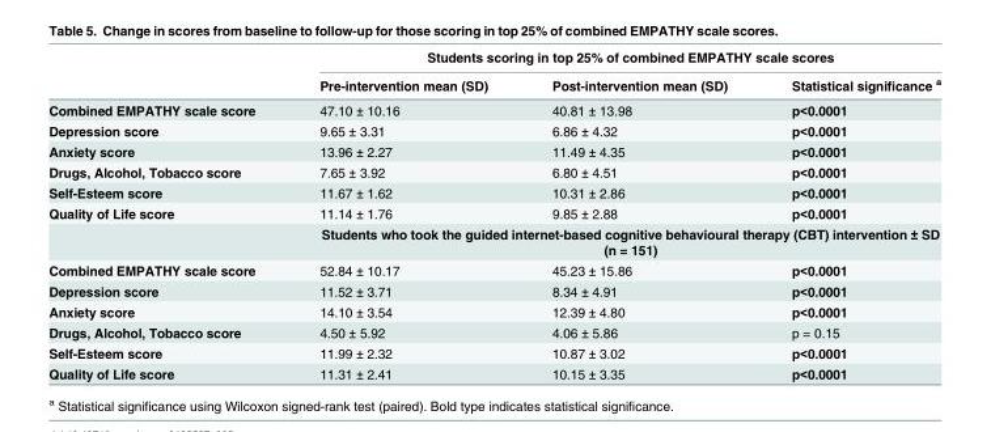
<table><thead><tr><td rowspan="2"></td><td colspan="3">Students scoring in top 25% of combined EMPATHY scale scores</td></tr><tr><td>Pre-intervention mean (SD)</td><td>Post-intervention mean (SD)</td><td>Statistical significance <sup>a</sup></td></tr></thead><tbody><tr><td>Combined EMPATHY scale score</td><td>47.10 ± 10.16</td><td>40.81 ± 13.98</td><td>p&lt;0.0001</td></tr><tr><td>Depression score</td><td>9.65 ± 3.31</td><td>6.86 ± 4.32</td><td>p&lt;0.0001</td></tr><tr><td>Anxiety score</td><td>13.96 ± 2.27</td><td>11.49 ± 4.35</td><td>p&lt;0.0001</td></tr><tr><td>Drugs, Alcohol, Tobacco score</td><td>7.65 ± 3.92</td><td>6.80 ± 4.51</td><td>p&lt;0.0001</td></tr><tr><td>Self-Esteem score</td><td>11.67 ± 1.62</td><td>10.31 ± 2.86</td><td>p&lt;0.0001</td></tr><tr><td rowspan="2">Quality of Life score</td><td>11.14 ± 1.76</td><td>9.85 ± 2.88</td><td>p&lt;0.0001</td></tr><tr><td colspan="3">Students who took the guided internet-based cognitive behavioural therapy (CBT) intervention ± SD (n = 151)</td></tr><tr><td>Combined EMPATHY scale score</td><td>52.84 ± 10.17</td><td>45.23 ± 15.86</td><td>p&lt;0.0001</td></tr><tr><td>Depression score</td><td>11.52 ± 3.71</td><td>8.34 ± 4.91</td><td>p&lt;0.0001</td></tr><tr><td>Anxiety score</td><td>14.10 ± 3.54</td><td>12.39 ± 4.80</td><td>p&lt;0.0001</td></tr><tr><td>Drugs, Alcohol, Tobacco score</td><td>4.50 ± 5.92</td><td>4.06 ± 5.86</td><td>p = 0.15</td></tr><tr><td>Self-Esteem score</td><td>11.99 ± 2.32</td><td>10.87 ± 3.02</td><td>p&lt;0.0001</td></tr><tr><td>Quality of Life score</td><td>11.31 ± 2.41</td><td>10.15 ± 3.35</td><td>p&lt;0.0001</td></tr></tbody></table>